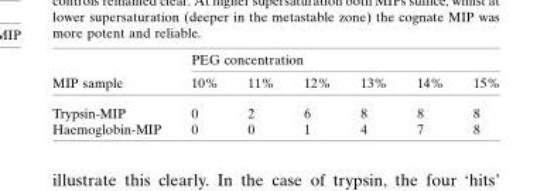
<table><thead><tr><td rowspan="2">MIP sample</td><td colspan="6">PEG concentration</td></tr><tr><td>10%</td><td>11%</td><td>12%</td><td>13%</td><td>14%</td><td>15%</td></tr></thead><tbody><tr><td>Trypsin-MIP</td><td>0</td><td>2</td><td>6</td><td>8</td><td>8</td><td>8</td></tr><tr><td>Haemoglobin-MIP</td><td>0</td><td>0</td><td>1</td><td>4</td><td>7</td><td>8</td></tr></tbody></table>